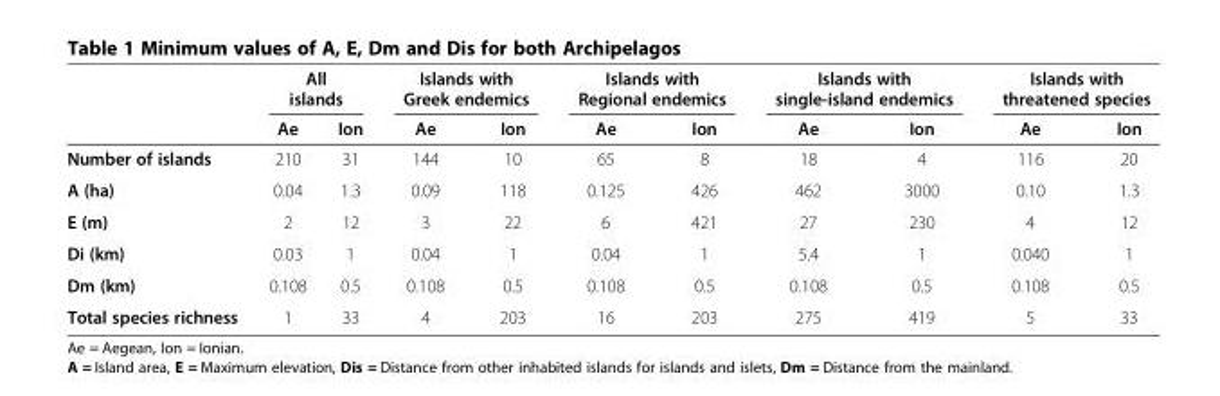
<table><thead><tr><td rowspan="2"></td><td colspan="2">All islands</td><td colspan="2">Islands with Greek endemics</td><td colspan="2">Islands with Regional endemics</td><td colspan="2">Islands with single-island endemics</td><td colspan="2">Islands with threatened species</td></tr><tr><td>Ae</td><td>Ion</td><td>Ae</td><td>Ion</td><td>Ae</td><td>Ion</td><td>Ae</td><td>Ion</td><td>Ae</td><td>Ion</td></tr></thead><tbody><tr><td>Number of islands</td><td>210</td><td>31</td><td>144</td><td>10</td><td>65</td><td>8</td><td>18</td><td>4</td><td>116</td><td>20</td></tr><tr><td>A (ha)</td><td>0.04</td><td>1.3</td><td>0.09</td><td>118</td><td>0.125</td><td>426</td><td>462</td><td>3000</td><td>0.10</td><td>1.3</td></tr><tr><td>E (m)</td><td>2</td><td>12</td><td>3</td><td>22</td><td>6</td><td>421</td><td>27</td><td>230</td><td>4</td><td>12</td></tr><tr><td>Di (km)</td><td>0.03</td><td>1</td><td>0.04</td><td>1</td><td>0.04</td><td>1</td><td>5.4</td><td>1</td><td>0.040</td><td>1</td></tr><tr><td>Dm (km)</td><td>0.108</td><td>0.5</td><td>0.108</td><td>0.5</td><td>0.108</td><td>0.5</td><td>0.108</td><td>0.5</td><td>0.108</td><td>0.5</td></tr><tr><td>Total species richness</td><td>1</td><td>33</td><td>4</td><td>203</td><td>16</td><td>203</td><td>275</td><td>419</td><td>5</td><td>33</td></tr></tbody></table>